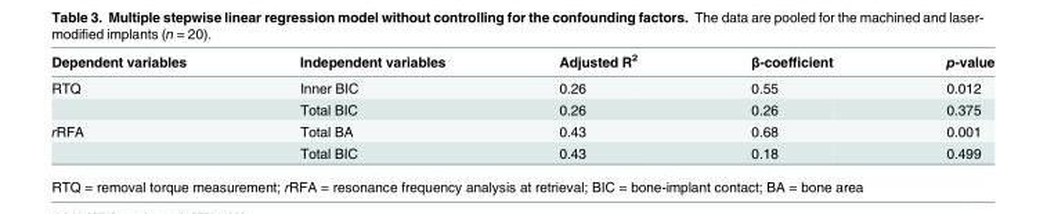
<table><thead><tr><td>Dependent variables</td><td>Independent variables</td><td>Adjusted R<sup>2</sup></td><td>β-coefficient</td><td>p-value</td></tr></thead><tbody><tr><td rowspan="2">RTQ</td><td>Inner BIC</td><td>0.26</td><td>0.55</td><td>0.012</td></tr><tr><td>Total BIC</td><td>0.26</td><td>0.26</td><td>0.375</td></tr><tr><td rowspan="2">rRFA</td><td>Total BA</td><td>0.43</td><td>0.68</td><td>0.001</td></tr><tr><td>Total BIC</td><td>0.43</td><td>0.18</td><td>0.499</td></tr></tbody></table>